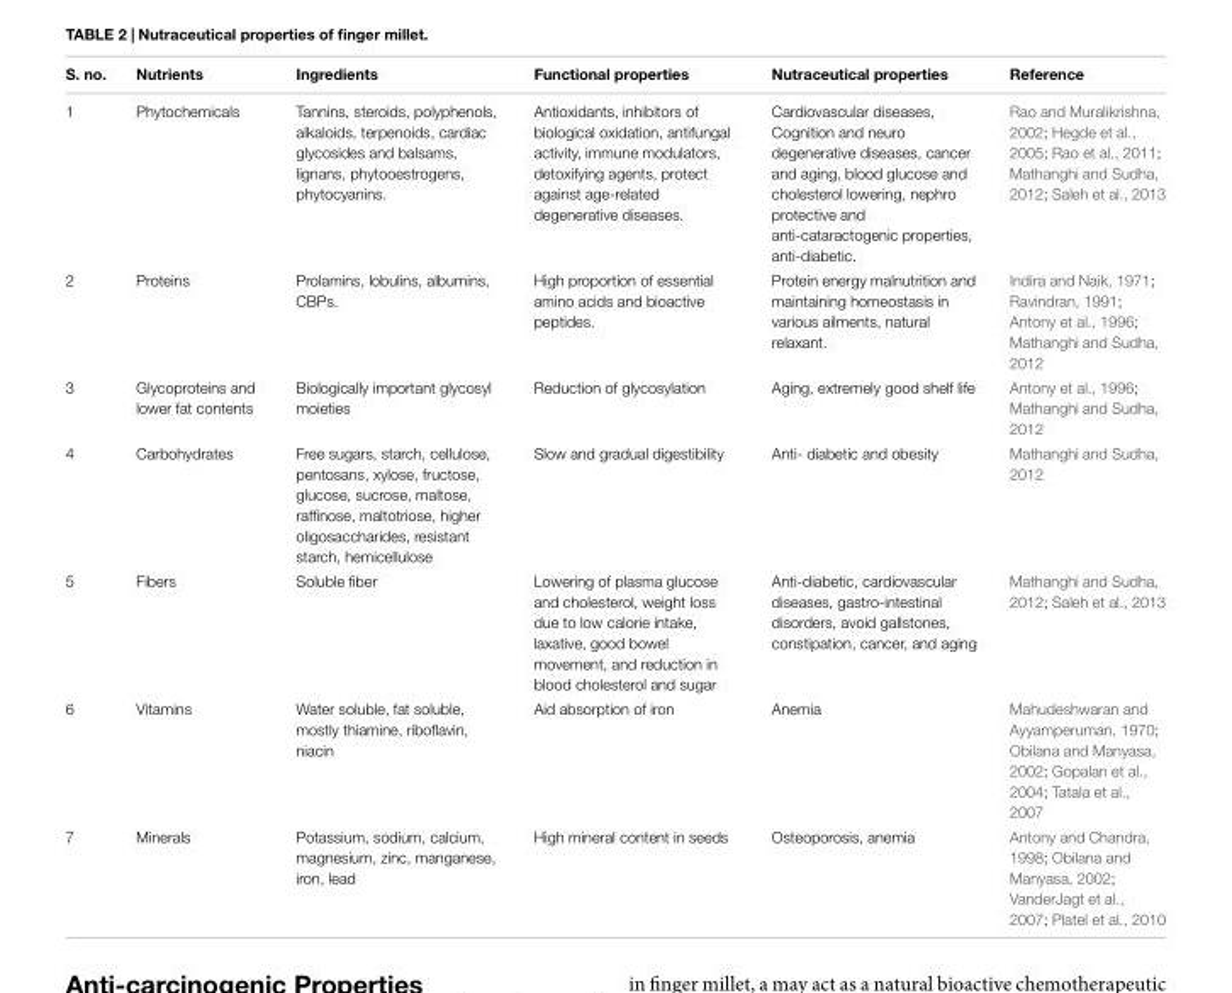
<table><thead><tr><td>S. no.</td><td>Nutrients</td><td>Ingredients</td><td>Functional properties</td><td>Nutraceutical properties</td><td>Reference</td></tr></thead><tbody><tr><td>1</td><td>Phytochemicals</td><td>Tannins, steroids, polyphenols, alkaloids, terpenoids, cardiac glycosides and balsams, lignans, phytooestrogens, phytocyanins.</td><td>Antioxidants, inhibitors of biological oxidation, antifungal activity, immune modulators, detoxifying agents, protect against age-related degenerative diseases.</td><td>Cardiovascular diseases, Cognition and neuro degenerative diseases, cancer and aging, blood glucose and cholesterol lowering, nephro protective and anti-cataractogenic properties, anti-diabetic.</td><td>Rao and Muralikrishna, 2002; Hegde et al., 2005; Rao et al., 2011; Mathanghi and Sudha, 2012; Saleh et al., 2013</td></tr><tr><td>2</td><td>Proteins</td><td>Prolamins, lobulins, albumins, CBPs.</td><td>High proportion of essential amino acids and bioactive peptides.</td><td>Protein energy malnutrition and maintaining homeostasis in various ailments, natural relaxant.</td><td>Indira and Naik, 1971; Ravindran, 1991; Antony et al., 1996; Mathanghi and Sudha, 2012</td></tr><tr><td>3</td><td>Glycoproteins and lower fat contents</td><td>Biologically important glycosyl moieties</td><td>Reduction of glycosylation</td><td>Aging, extremely good shelf life</td><td>Antony et al., 1996; Mathanghi and Sudha, 2012</td></tr><tr><td>4</td><td>Carbohydrates</td><td>Free sugars, starch, cellulose, pentosans, xylose, fructose, glucose, sucrose, maltose, raffinose, maltotriose, higher oligosaccharides, resistant starch, hemicellulose</td><td>Slow and gradual digestibility</td><td>Anti- diabetic and obesity</td><td>Mathanghi and Sudha, 2012</td></tr><tr><td>5</td><td>Fibers</td><td>Soluble fiber</td><td>Lowering of plasma glucose and cholesterol, weight loss due to low calorie intake, laxative, good bowel movement, and reduction in blood cholesterol and sugar</td><td>Anti-diabetic, cardiovascular diseases, gastro-intestinal disorders, avoid gallstones, constipation, cancer, and aging</td><td>Mathanghi and Sudha, 2012; Saleh et al., 2013</td></tr><tr><td>6</td><td>Vitamins</td><td>Water soluble, fat soluble, mostly thiamine, riboflavin, niacin</td><td>Aid absorption of iron</td><td>Anemia</td><td>Mahudeshwaran and Ayyamperuman, 1970; Obilana and Manyasa, 2002; Gopalan et al., 2004; Tatala et al., 2007</td></tr><tr><td>7</td><td>Minerals</td><td>Potassium, sodium, calcium, magnesium, zinc, manganese, iron, lead</td><td>High mineral content in seeds</td><td>Osteoporosis, anemia</td><td>Antony and Chandra, 1998; Obilana and Manyasa, 2002; VanderJagt et al., 2007; Platel et al., 2010</td></tr></tbody></table>